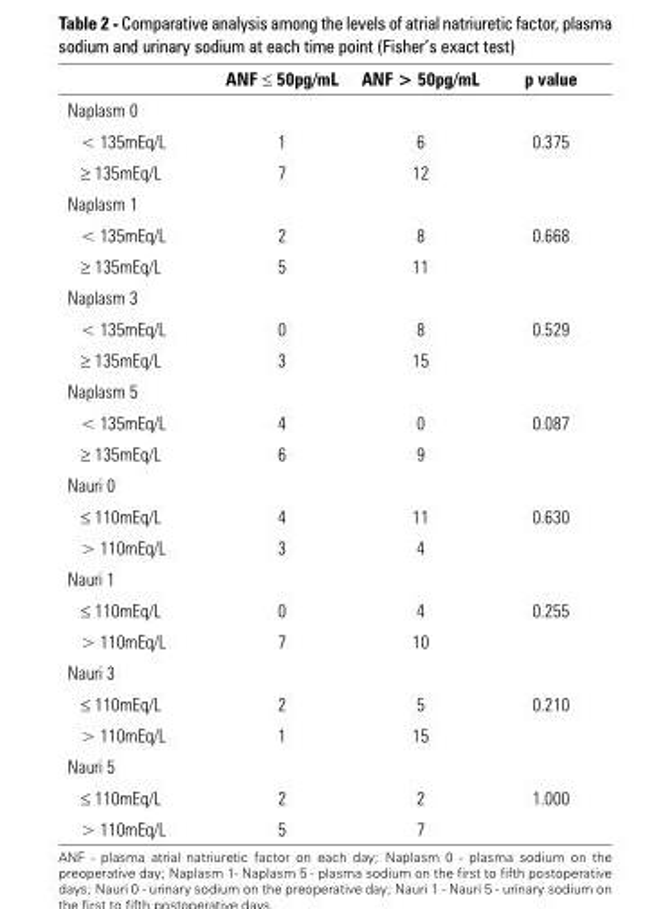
<table><thead><tr><td></td><td>ANF ≤ 50pg/mL</td><td>ANF &gt; 50pg/mL</td><td>p value</td></tr></thead><tbody><tr><td colspan="4">Naplasm 0</td></tr><tr><td>&lt; 135mEq/L</td><td>1</td><td>6</td><td>0.375</td></tr><tr><td>≥ 135mEq/L</td><td>7</td><td>12</td><td></td></tr><tr><td colspan="4">Naplasm 1</td></tr><tr><td>&lt; 135mEq/L</td><td>2</td><td>8</td><td>0.668</td></tr><tr><td>≥ 135mEq/L</td><td>5</td><td>11</td><td></td></tr><tr><td colspan="4">Naplasm 3</td></tr><tr><td>&lt; 135mEq/L</td><td>0</td><td>8</td><td>0.529</td></tr><tr><td>≥ 135mEq/L</td><td>3</td><td>15</td><td></td></tr><tr><td colspan="4">Naplasm 5</td></tr><tr><td>&lt; 135mEq/L</td><td>4</td><td>0</td><td>0.087</td></tr><tr><td>≥ 135mEq/L</td><td>6</td><td>9</td><td></td></tr><tr><td colspan="4">Nauri 0</td></tr><tr><td>≤ 110mEq/L</td><td>4</td><td>11</td><td>0.630</td></tr><tr><td>&gt; 110mEq/L</td><td>3</td><td>4</td><td></td></tr><tr><td colspan="4">Nauri 1</td></tr><tr><td>≤ 110mEq/L</td><td>0</td><td>4</td><td>0.255</td></tr><tr><td>&gt; 110mEq/L</td><td>7</td><td>10</td><td></td></tr><tr><td colspan="4">Nauri 3</td></tr><tr><td>≤ 110mEq/L</td><td>2</td><td>5</td><td>0.210</td></tr><tr><td>&gt; 110mEq/L</td><td>1</td><td>15</td><td></td></tr><tr><td colspan="4">Nauri 5</td></tr><tr><td>≤ 110mEq/L</td><td>2</td><td>2</td><td>1.000</td></tr><tr><td>&gt; 110mEq/L</td><td>5</td><td>7</td><td></td></tr></tbody></table>